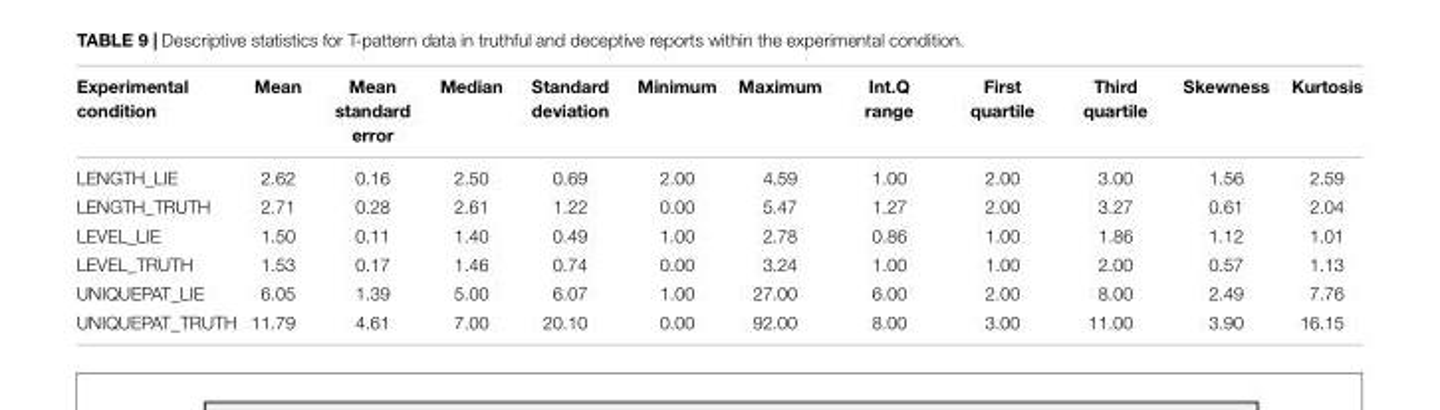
<table><thead><tr><td>Experimental condition</td><td>Mean</td><td>Mean standard error</td><td>Median</td><td>Standard deviation</td><td>Minimum</td><td>Maximum</td><td>Int.Q range</td><td>First quartile</td><td>Third quartile</td><td>Skewness</td><td>Kurtosis</td></tr></thead><tbody><tr><td>LENGTH_LIE</td><td>2.62</td><td>0.16</td><td>2.50</td><td>0.69</td><td>2.00</td><td>4.59</td><td>1.00</td><td>2.00</td><td>3.00</td><td>1.56</td><td>2.59</td></tr><tr><td>LENGTH_TRUTH</td><td>2.71</td><td>0.28</td><td>2.61</td><td>1.22</td><td>0.00</td><td>5.47</td><td>1.27</td><td>2.00</td><td>3.27</td><td>0.61</td><td>2.04</td></tr><tr><td>LEVEL_LIE</td><td>1.50</td><td>0.11</td><td>1.40</td><td>0.49</td><td>1.00</td><td>2.78</td><td>0.86</td><td>1.00</td><td>1.86</td><td>1.12</td><td>1.01</td></tr><tr><td>LEVEL_TRUTH</td><td>1.53</td><td>0.17</td><td>1.46</td><td>0.74</td><td>0.00</td><td>3.24</td><td>1.00</td><td>1.00</td><td>2.00</td><td>0.57</td><td>1.13</td></tr><tr><td>UNIQUEPAT_LIE</td><td>6.05</td><td>1.39</td><td>5.00</td><td>6.07</td><td>1.00</td><td>27.00</td><td>6.00</td><td>2.00</td><td>8.00</td><td>2.49</td><td>7.76</td></tr><tr><td>UNIQUEPAT_TRUTH</td><td>11.79</td><td>4.61</td><td>7.00</td><td>20.10</td><td>0.00</td><td>92.00</td><td>8.00</td><td>3.00</td><td>11.00</td><td>3.90</td><td>16.15</td></tr></tbody></table>